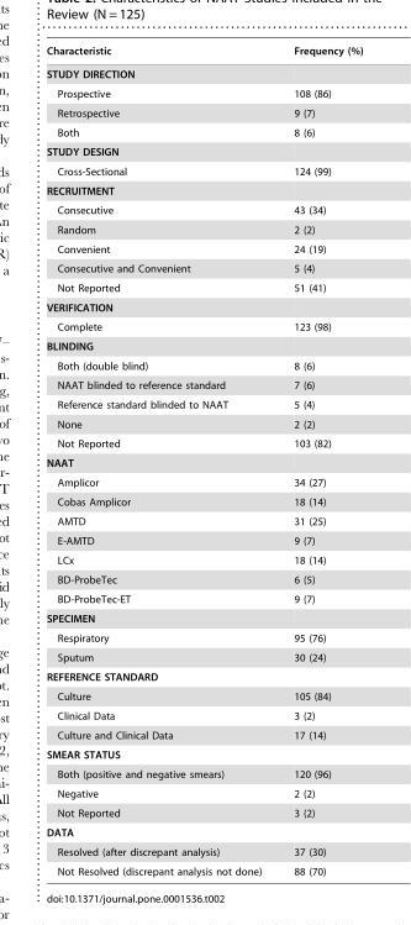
<table><thead><tr><td>Characteristic</td><td>Frequency (%)</td></tr></thead><tbody><tr><td colspan="2">STUDY DIRECTION</td></tr><tr><td>Prospective</td><td>108 (86)</td></tr><tr><td>Retrospective</td><td>9 (7)</td></tr><tr><td>Both</td><td>8 (6)</td></tr><tr><td colspan="2">STUDY DESIGN</td></tr><tr><td>Cross-Sectional</td><td>124 (99)</td></tr><tr><td colspan="2">RECRUITMENT</td></tr><tr><td>Consecutive</td><td>43 (34)</td></tr><tr><td>Random</td><td>2 (2)</td></tr><tr><td>Convenient</td><td>24 (19)</td></tr><tr><td>Consecutive and Convenient</td><td>5 (4)</td></tr><tr><td>Not Reported</td><td>51 (41)</td></tr><tr><td colspan="2">VERIFICATION</td></tr><tr><td>Complete</td><td>123 (98)</td></tr><tr><td colspan="2">BLINDING</td></tr><tr><td>Both (double blind)</td><td>8 (6)</td></tr><tr><td>NAAT blinded to reference standard</td><td>7 (6)</td></tr><tr><td>Reference standard blinded to NAAT</td><td>5 (4)</td></tr><tr><td>None</td><td>2 (2)</td></tr><tr><td>Not Reported</td><td>103 (82)</td></tr><tr><td colspan="2">NAAT</td></tr><tr><td>Amplicor</td><td>34 (27)</td></tr><tr><td>Cobas Amplicor</td><td>18 (14)</td></tr><tr><td>AMTD</td><td>31 (25)</td></tr><tr><td>E-AMTD</td><td>9 (7)</td></tr><tr><td>LCx</td><td>18 (14)</td></tr><tr><td>BD-ProbeTec</td><td>6 (5)</td></tr><tr><td>BD-ProbeTec-ET</td><td>9 (7)</td></tr><tr><td colspan="2">SPECIMEN</td></tr><tr><td>Respiratory</td><td>95 (76)</td></tr><tr><td>Sputum</td><td>30 (24)</td></tr><tr><td colspan="2">REFERENCE STANDARD</td></tr><tr><td>Culture</td><td>105 (84)</td></tr><tr><td>Clinical Data</td><td>3 (2)</td></tr><tr><td>Culture and Clinical Data</td><td>17 (14)</td></tr><tr><td colspan="2">SMEAR STATUS</td></tr><tr><td>Both (positive and negative smears)</td><td>120 (96)</td></tr><tr><td>Negative</td><td>2 (2)</td></tr><tr><td>Not Reported</td><td>3 (2)</td></tr><tr><td colspan="2">DATA</td></tr><tr><td>Resolved (after discrepant analysis)</td><td>37 (30)</td></tr><tr><td>Not Resolved (discrepant analysis not done)</td><td>88 (70)</td></tr></tbody></table>